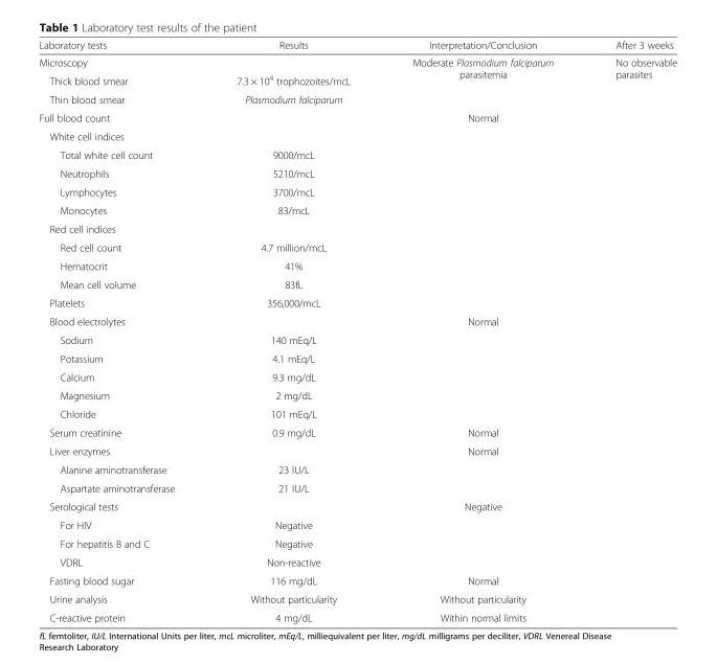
<table><thead><tr><td>Laboratory tests</td><td>Results</td><td>Interpretation/Conclusion</td><td>After 3 weeks</td></tr></thead><tbody><tr><td colspan="2">Microscopy</td><td rowspan="3">Moderate Plasmodium falciparum parasitemia</td><td rowspan="3">No observable parasites</td></tr><tr><td>Thick blood smear</td><td>7.3 × 10<sup>4</sup> trophozoites/mcL</td></tr><tr><td>Thin blood smear</td><td>Plasmodium falciparum</td></tr><tr><td colspan="2">Full blood count</td><td rowspan="11">Normal</td><td rowspan="11"></td></tr><tr><td colspan="2">White cell indices</td></tr><tr><td>Total white cell count</td><td>9000/mcL</td></tr><tr><td>Neutrophils</td><td>5210/mcL</td></tr><tr><td>Lymphocytes</td><td>3700/mcL</td></tr><tr><td>Monocytes</td><td>83/mcL</td></tr><tr><td colspan="2">Red cell indices</td></tr><tr><td>Red cell count</td><td>4.7 million/mcL</td></tr><tr><td>Hematocrit</td><td>41%</td></tr><tr><td>Mean cell volume</td><td>83fL</td></tr><tr><td>Platelets</td><td>356,000/mcL</td></tr><tr><td colspan="2">Blood electrolytes</td><td rowspan="6">Normal</td><td rowspan="6"></td></tr><tr><td>Sodium</td><td>140 mEq/L</td></tr><tr><td>Potassium</td><td>4.1 mEq/L</td></tr><tr><td>Calcium</td><td>9.3 mg/dL</td></tr><tr><td>Magnesium</td><td>2 mg/dL</td></tr><tr><td>Chloride</td><td>101 mEq/L</td></tr><tr><td>Serum creatinine</td><td>0.9 mg/dL</td><td>Normal</td><td></td></tr><tr><td colspan="2">Liver enzymes</td><td rowspan="3">Normal</td><td rowspan="3"></td></tr><tr><td>Alanine aminotransferase</td><td>23 IU/L</td></tr><tr><td>Aspartate aminotransferase</td><td>21 IU/L</td></tr><tr><td colspan="2">Serological tests</td><td rowspan="4">Negative</td><td rowspan="4"></td></tr><tr><td>For HIV</td><td>Negative</td></tr><tr><td>For hepatitis B and C</td><td>Negative</td></tr><tr><td>VDRL</td><td>Non-reactive</td></tr><tr><td>Fasting blood sugar</td><td>116 mg/dL</td><td>Normal</td><td></td></tr><tr><td>Urine analysis</td><td>Without particularity</td><td>Without particularity</td><td></td></tr><tr><td>C-reactive protein</td><td>4 mg/dL</td><td>Within normal limits</td><td></td></tr></tbody></table>